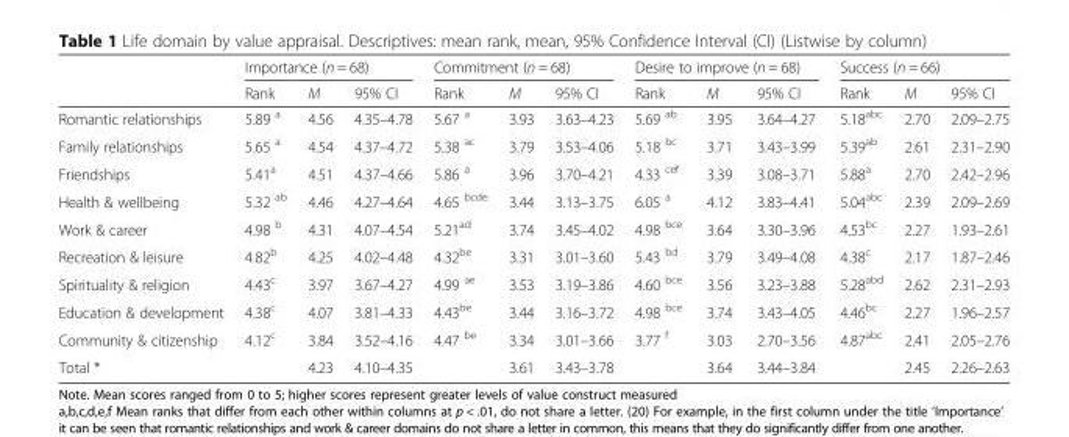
<table><thead><tr><td rowspan="2"></td><td colspan="3">Importance (n = 68)</td><td colspan="3">Commitment (n = 68)</td><td colspan="3">Desire to improve (n = 68)</td><td colspan="3">Success (n = 66)</td></tr><tr><td>Rank</td><td>M</td><td>95% CI</td><td>Rank</td><td>M</td><td>95% CI</td><td>Rank</td><td>M</td><td>95% CI</td><td>Rank</td><td>M</td><td>95% CI</td></tr></thead><tbody><tr><td>Romantic relationships</td><td>5.89 <sup>a</sup></td><td>4.56</td><td>4.35–4.78</td><td>5.67 <sup>a</sup></td><td>3.93</td><td>3.63–4.23</td><td>5.69 <sup>ab</sup></td><td>3.95</td><td>3.64–4.27</td><td>5.18<sup>abc</sup></td><td>2.70</td><td>2.09–2.75</td></tr><tr><td>Family relationships</td><td>5.65 <sup>a</sup></td><td>4.54</td><td>4.37–4.72</td><td>5.38 <sup>ac</sup></td><td>3.79</td><td>3.53–4.06</td><td>5.18 <sup>bc</sup></td><td>3.71</td><td>3.43–3.99</td><td>5.39<sup>ab</sup></td><td>2.61</td><td>2.31–2.90</td></tr><tr><td>Friendships</td><td>5.41<sup>a</sup></td><td>4.51</td><td>4.37–4.66</td><td>5.86 <sup>a</sup></td><td>3.96</td><td>3.70–4.21</td><td>4.33 <sup>cef</sup></td><td>3.39</td><td>3.08–3.71</td><td>5.88<sup>a</sup></td><td>2.70</td><td>2.42–2.96</td></tr><tr><td>Health &amp; wellbeing</td><td>5.32 <sup>ab</sup></td><td>4.46</td><td>4.27–4.64</td><td>4.65 <sup>bcde</sup></td><td>3.44</td><td>3.13–3.75</td><td>6.05 <sup>a</sup></td><td>4.12</td><td>3.83–4.41</td><td>5.04<sup>abc</sup></td><td>2.39</td><td>2.09–2.69</td></tr><tr><td>Work &amp; career</td><td>4.98 <sup>b</sup></td><td>4.31</td><td>4.07–4.54</td><td>5.21<sup>ad</sup></td><td>3.74</td><td>3.45–4.02</td><td>4.98 <sup>bce</sup></td><td>3.64</td><td>3.30–3.96</td><td>4.53<sup>bc</sup></td><td>2.27</td><td>1.93–2.61</td></tr><tr><td>Recreation &amp; leisure</td><td>4.82<sup>b</sup></td><td>4.25</td><td>4.02–4.48</td><td>4.32<sup>be</sup></td><td>3.31</td><td>3.01–3.60</td><td>5.43 <sup>bd</sup></td><td>3.79</td><td>3.49–4.08</td><td>4.38<sup>c</sup></td><td>2.17</td><td>1.87–2.46</td></tr><tr><td>Spirituality &amp; religion</td><td>4.43<sup>c</sup></td><td>3.97</td><td>3.67–4.27</td><td>4.99 <sup>ae</sup></td><td>3.53</td><td>3.19–3.86</td><td>4.60 <sup>bce</sup></td><td>3.56</td><td>3.23–3.88</td><td>5.28<sup>abd</sup></td><td>2.62</td><td>2.31–2.93</td></tr><tr><td>Education &amp; development</td><td>4.38<sup>c</sup></td><td>4.07</td><td>3.81–4.33</td><td>4.43<sup>be</sup></td><td>3.44</td><td>3.16–3.72</td><td>4.98 <sup>bce</sup></td><td>3.74</td><td>3.43–4.05</td><td>4.46<sup>bc</sup></td><td>2.27</td><td>1.96–2.57</td></tr><tr><td>Community &amp; citizenship</td><td>4.12<sup>c</sup></td><td>3.84</td><td>3.52–4.16</td><td>4.47 <sup>be</sup></td><td>3.34</td><td>3.01–3.66</td><td>3.77 <sup>f</sup></td><td>3.03</td><td>2.70–3.56</td><td>4.87<sup>abc</sup></td><td>2.41</td><td>2.05–2.76</td></tr><tr><td>Total *</td><td></td><td>4.23</td><td>4.10–4.35</td><td></td><td>3.61</td><td>3.43–3.78</td><td></td><td>3.64</td><td>3.44–3.84</td><td></td><td>2.45</td><td>2.26–2.63</td></tr></tbody></table>